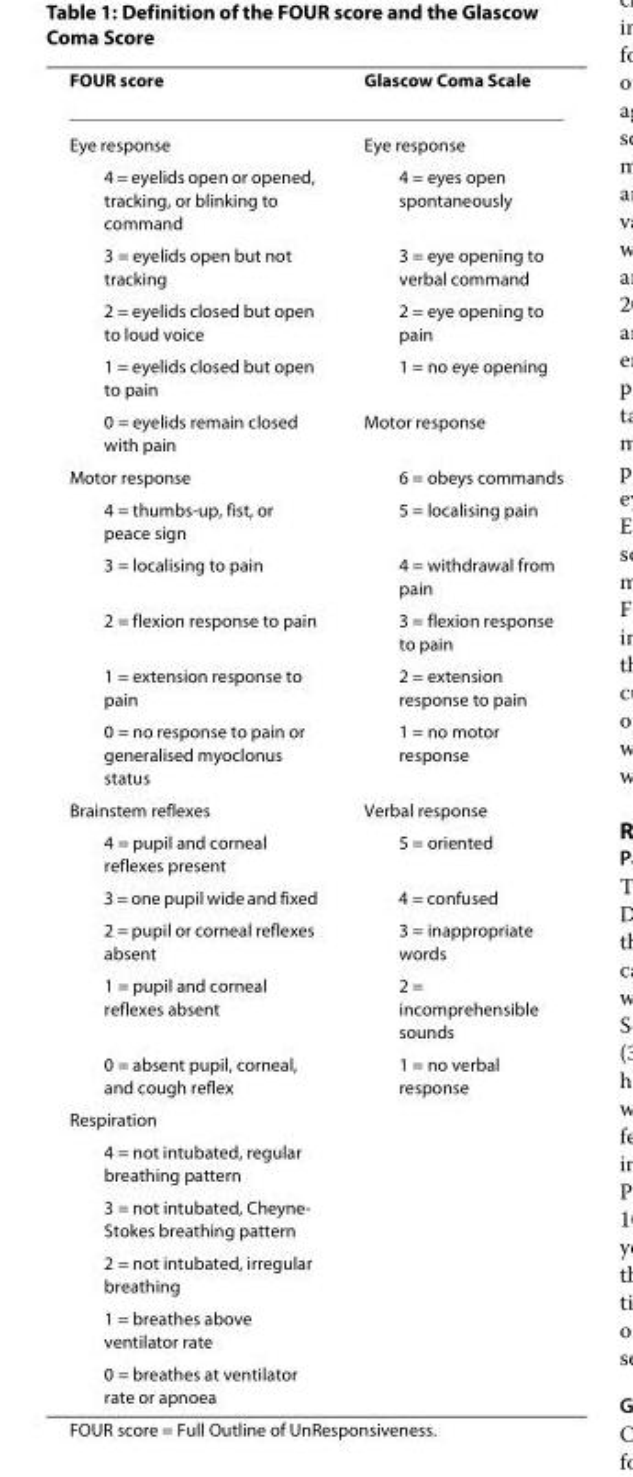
<table><thead><tr><td>FOUR score</td><td>Glascow Coma Scale</td></tr></thead><tbody><tr><td>Eye response</td><td>Eye response</td></tr><tr><td>4 = eyelids open or opened, tracking, or blinking to command</td><td>4 = eyes open spontaneously</td></tr><tr><td>3 = eyelids open but not tracking</td><td>3 = eye opening to verbal command</td></tr><tr><td>2 = eyelids closed but open to loud voice</td><td>2 = eye opening to pain</td></tr><tr><td>1 = eyelids closed but open to pain</td><td>1 = no eye opening</td></tr><tr><td>0 = eyelids remain closed with pain</td><td>Motor response</td></tr><tr><td>Motor response</td><td>6 = obeys commands</td></tr><tr><td>4 = thumbs-up, fist, or peace sign</td><td>5 = localising pain</td></tr><tr><td>3 = localising to pain</td><td>4 = withdrawal from pain</td></tr><tr><td>2 = flexion response to pain</td><td>3 = flexion response to pain</td></tr><tr><td>1 = extension response to pain</td><td>2 = extension response to pain</td></tr><tr><td>0 = no response to pain or generalised myoclonus status</td><td>1 = no motor response</td></tr><tr><td>Brainstem reflexes</td><td>Verbal response</td></tr><tr><td>4 = pupil and corneal reflexes present</td><td>5 = oriented</td></tr><tr><td>3 = one pupil wide and fixed</td><td>4 = confused</td></tr><tr><td>2 = pupil or corneal reflexes absent</td><td>3 = inappropriate words</td></tr><tr><td>1 = pupil and corneal reflexes absent</td><td>2 = incomprehensible sounds</td></tr><tr><td>0 = absent pupil, corneal, and cough reflex</td><td>1 = no verbal response</td></tr><tr><td colspan="2">Respiration</td></tr><tr><td colspan="2">4 = not intubated, regular breathing pattern</td></tr><tr><td colspan="2">3 = not intubated, Cheyne- Stokes breathing pattern</td></tr><tr><td colspan="2">2 = not intubated, irregular breathing</td></tr><tr><td colspan="2">1 = breathes above ventilator rate</td></tr><tr><td>0 = breathes at ventilator rate or apnoea</td><td></td></tr></tbody></table>